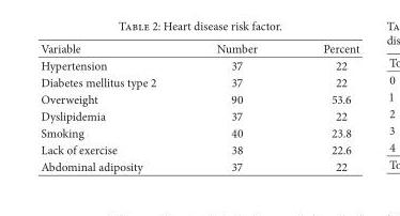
<table><thead><tr><td>Variable</td><td>Number</td><td>Percent</td></tr></thead><tbody><tr><td>Hypertension</td><td>37</td><td>22</td></tr><tr><td>Diabetes mellitus type 2</td><td>37</td><td>22</td></tr><tr><td>Overweight</td><td>90</td><td>53.6</td></tr><tr><td>Dyslipidemia</td><td>37</td><td>22</td></tr><tr><td>Smoking</td><td>40</td><td>23.8</td></tr><tr><td>Lack of exercise</td><td>38</td><td>22.6</td></tr><tr><td>Abdominal adiposity</td><td>37</td><td>22</td></tr></tbody></table>